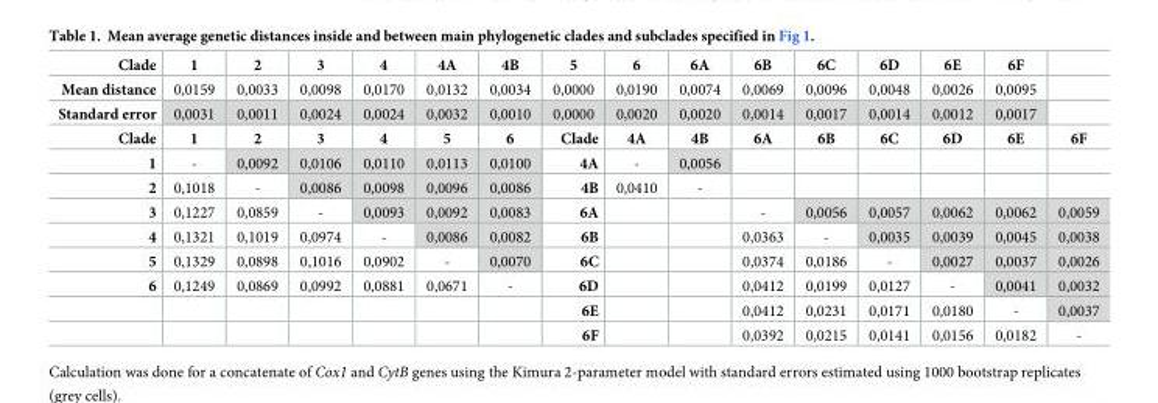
<table><tbody><tr><td>Clade</td><td>1</td><td>2</td><td>3</td><td>4</td><td>4A</td><td>4B</td><td>5</td><td>6</td><td>6A</td><td>6B</td><td>6C</td><td>6D</td><td>6E</td><td>6F</td><td></td></tr><tr><td>Mean distance</td><td>0,0159</td><td>0,0033</td><td>0,0098</td><td>0,0170</td><td>0,0132</td><td>0,0034</td><td>0,0000</td><td>0,0190</td><td>0,0074</td><td>0,0069</td><td>0,0096</td><td>0,0048</td><td>0,0026</td><td>0,0095</td><td></td></tr><tr><td>Standard error</td><td>0,0031</td><td>0,0011</td><td>0,0024</td><td>0,0024</td><td>0,0032</td><td>0,0010</td><td>0,0000</td><td>0,0020</td><td>0,0020</td><td>0,0014</td><td>0,0017</td><td>0,0014</td><td>0,0012</td><td>0,0017</td><td></td></tr><tr><td>Clade</td><td>1</td><td>2</td><td>3</td><td>4</td><td>5</td><td>6</td><td>Clade</td><td>4A</td><td>4B</td><td>6A</td><td>6B</td><td>6C</td><td>6D</td><td>6E</td><td>6F</td></tr><tr><td>1</td><td>-</td><td>0,0092</td><td>0,0106</td><td>0,0110</td><td>0,0113</td><td>0,0100</td><td>4A</td><td>-</td><td>0,0056</td><td></td><td></td><td></td><td></td><td></td><td></td></tr><tr><td>2</td><td>0,1018</td><td>-</td><td>0,0086</td><td>0,0098</td><td>0,0096</td><td>0,0086</td><td>4B</td><td>0,0410</td><td>-</td><td></td><td></td><td></td><td></td><td></td><td></td></tr><tr><td>3</td><td>0,1227</td><td>0,0859</td><td>-</td><td>0,0093</td><td>0,0092</td><td>0,0083</td><td>6A</td><td></td><td></td><td>-</td><td>0,0056</td><td>0,0057</td><td>0,0062</td><td>0,0062</td><td>0,0059</td></tr><tr><td>4</td><td>0,1321</td><td>0,1019</td><td>0,0974</td><td>-</td><td>0,0086</td><td>0,0082</td><td>6B</td><td></td><td></td><td>0,0363</td><td>-</td><td>0,0035</td><td>0,0039</td><td>0,0045</td><td>0,0038</td></tr><tr><td>5</td><td>0,1329</td><td>0,0898</td><td>0,1016</td><td>0,0902</td><td>-</td><td>0,0070</td><td>6C</td><td></td><td></td><td>0,0374</td><td>0,0186</td><td>-</td><td>0,0027</td><td>0,0037</td><td>0,0026</td></tr><tr><td rowspan="3">6</td><td>0,1249</td><td>0,0869</td><td>0,0992</td><td>0,0881</td><td>0,0671</td><td>-</td><td>6D</td><td></td><td></td><td>0,0412</td><td>0,0199</td><td>0,0127</td><td>-</td><td>0,0041</td><td>0,0032</td></tr><tr><td></td><td></td><td></td><td></td><td></td><td></td><td>6E</td><td></td><td></td><td>0,0412</td><td>0,0231</td><td>0,0171</td><td>0,0180</td><td>-</td><td>0,0037</td></tr><tr><td></td><td></td><td></td><td></td><td></td><td></td><td>6F</td><td></td><td></td><td>0,0392</td><td>0,0215</td><td>0,0141</td><td>0,0156</td><td>0,0182</td><td>-</td></tr></tbody></table>